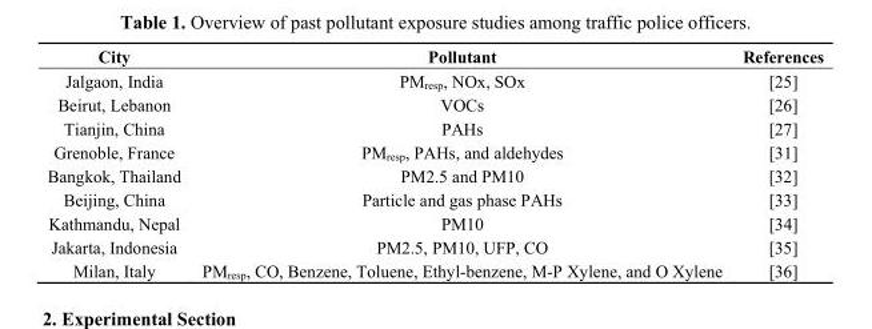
<table><thead><tr><td>City</td><td>Pollutant</td><td>References</td></tr></thead><tbody><tr><td>Jalgaon, India</td><td>PM<sub>resp</sub>, NOx, SOx</td><td>[25]</td></tr><tr><td>Beirut, Lebanon</td><td>VOCs</td><td>[26]</td></tr><tr><td>Tianjin, China</td><td>PAHs</td><td>[27]</td></tr><tr><td>Grenoble, France</td><td>PM<sub>resp</sub>, PAHs, and aldehydes</td><td>[31]</td></tr><tr><td>Bangkok, Thailand</td><td>PM2.5 and PM10</td><td>[32]</td></tr><tr><td>Beijing, China</td><td>Particle and gas phase PAHs</td><td>[33]</td></tr><tr><td>Kathmandu, Nepal</td><td>PM10</td><td>[34]</td></tr><tr><td>Jakarta, Indonesia</td><td>PM2.5, PM10, UFP, CO</td><td>[35]</td></tr><tr><td>Milan, Italy</td><td>PM<sub>resp</sub>, CO, Benzene, Toluene, Ethyl-benzene, M-P Xylene, and O Xylene</td><td>[36]</td></tr></tbody></table>